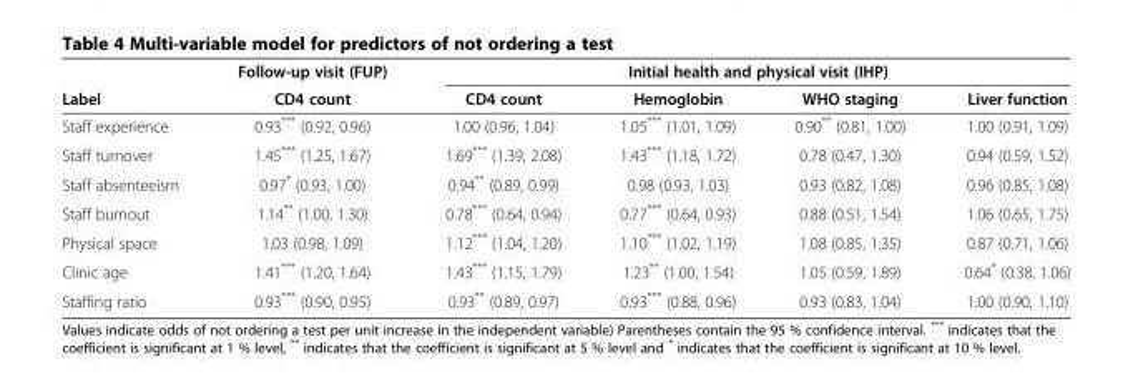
<table><thead><tr><td rowspan="2">Label</td><td rowspan="2">Follow-up visit (FUP) CD4 count</td><td colspan="4">Initial health and physical visit (IHP)</td></tr><tr><td>CD4 count</td><td>Hemoglobin</td><td>WHO staging</td><td>Liver function</td></tr></thead><tbody><tr><td>Staff experience</td><td>0.93*** (0.92, 0.96)</td><td>1.00 (0.96, 1.04)</td><td>1.05*** (1.01, 1.09)</td><td>0.90** (0.81, 1.00)</td><td>1.00 (0.91, 1.09)</td></tr><tr><td>Staff turnover</td><td>1.45*** (1.25, 1.67)</td><td>1.69*** (1.39, 2.08)</td><td>1.43*** (1.18, 1.72)</td><td>0.78 (0.47, 1.30)</td><td>0.94 (0.59, 1.52)</td></tr><tr><td>Staff absenteeism</td><td>0.97* (0.93, 1.00)</td><td>0.94** (0.89, 0.99)</td><td>0.98 (0.93, 1.03)</td><td>0.93 (0.82, 1.08)</td><td>0.96 (0.85, 1.08)</td></tr><tr><td>Staff burnout</td><td>1.14** (1.00, 1.30)</td><td>0.78*** (0.64, 0.94)</td><td>0.77*** (0.64, 0.93)</td><td>0.88 (0.51, 1.54)</td><td>1.06 (0.65, 1.75)</td></tr><tr><td>Physical space</td><td>1.03 (0.98, 1.09)</td><td>1.12*** (1.04, 1.20)</td><td>1.10*** (1.02, 1.19)</td><td>1.08 (0.85, 1.35)</td><td>0.87 (0.71, 1.06)</td></tr><tr><td>Clinic age</td><td>1.41*** (1.20, 1.64)</td><td>1.43*** (1.15, 1.79)</td><td>1.23** (1.00, 1.54)</td><td>1.05 (0.59, 1.89)</td><td>0.64* (0.38, 1.06)</td></tr><tr><td>Staffing ratio</td><td>0.93*** (0.90, 0.95)</td><td>0.93** (0.89, 0.97)</td><td>0.93*** (0.88, 0.96)</td><td>0.93 (0.83, 1.04)</td><td>1.00 (0.90, 1.10)</td></tr></tbody></table>